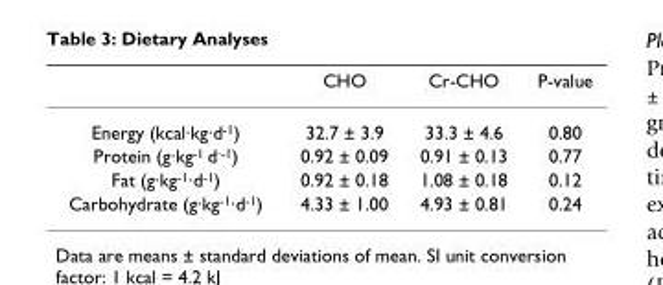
<table><thead><tr><td></td><td>CHO</td><td>Cr-CHO</td><td>P-value</td></tr></thead><tbody><tr><td>Energy (kcal·kg·d<sup>-1</sup>)</td><td>32.7 ± 3.9</td><td>33.3 ± 4.6</td><td>0.80</td></tr><tr><td>Protein (g·kg<sup>-1</sup> d<sup>·-1</sup>)</td><td>0.92 ± 0.09</td><td>0.91 ± 0.13</td><td>0.77</td></tr><tr><td>Fat (g·kg<sup>-1</sup>·d<sup>-1</sup>)</td><td>0.92 ± 0.18</td><td>1.08 ± 0.18</td><td>0.12</td></tr><tr><td>Carbohydrate (g·kg<sup>-1</sup>·d<sup>-1</sup>)</td><td>4.33 ± 1.00</td><td>4.93 ± 0.81</td><td>0.24</td></tr></tbody></table>